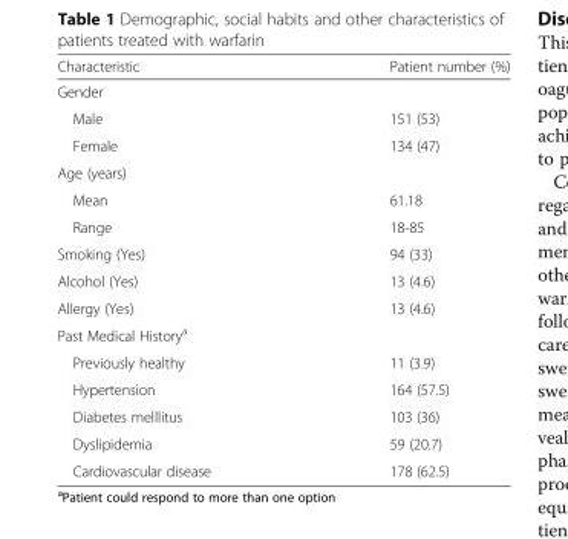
<table><thead><tr><td>Characteristic</td><td>Patient number (%)</td></tr></thead><tbody><tr><td colspan="2">Gender</td></tr><tr><td>Male</td><td>151 (53)</td></tr><tr><td>Female</td><td>134 (47)</td></tr><tr><td colspan="2">Age (years)</td></tr><tr><td>Mean</td><td>61.18</td></tr><tr><td>Range</td><td>18-85</td></tr><tr><td>Smoking (Yes)</td><td>94 (33)</td></tr><tr><td>Alcohol (Yes)</td><td>13 (4.6)</td></tr><tr><td>Allergy (Yes)</td><td>13 (4.6)</td></tr><tr><td colspan="2">Past Medical History<sup>a</sup></td></tr><tr><td>Previously healthy</td><td>11 (3.9)</td></tr><tr><td>Hypertension</td><td>164 (57.5)</td></tr><tr><td>Diabetes melllitus</td><td>103 (36)</td></tr><tr><td>Dyslipidemia</td><td>59 (20.7)</td></tr><tr><td>Cardiovascular disease</td><td>178 (62.5)</td></tr></tbody></table>